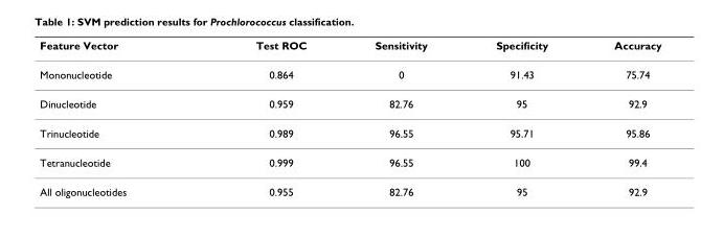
<table><thead><tr><td>Feature Vector</td><td>Test ROC</td><td>Sensitivity</td><td>Specificity</td><td>Accuracy</td></tr></thead><tbody><tr><td>Mononucleotide</td><td>0.864</td><td>0</td><td>91.43</td><td>75.74</td></tr><tr><td>Dinucleotide</td><td>0.959</td><td>82.76</td><td>95</td><td>92.9</td></tr><tr><td>Trinucleotide</td><td>0.989</td><td>96.55</td><td>95.71</td><td>95.86</td></tr><tr><td>Tetranucleotide</td><td>0.999</td><td>96.55</td><td>100</td><td>99.4</td></tr><tr><td>All oligonucleotides</td><td>0.955</td><td>82.76</td><td>95</td><td>92.9</td></tr></tbody></table>